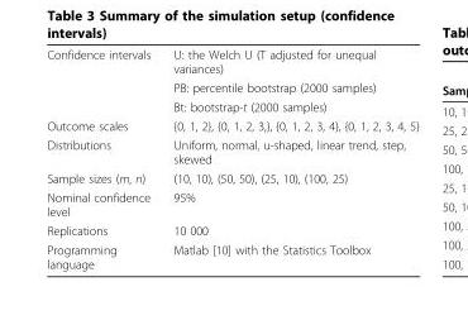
<table><tbody><tr><td rowspan="3">Confidence intervals</td><td>U: the Welch U (T adjusted for unequal variances)</td></tr><tr><td>PB: percentile bootstrap (2000 samples)</td></tr><tr><td>Bt: bootstrap-t (2000 samples)</td></tr><tr><td>Outcome scales</td><td>{0, 1, 2}, {0, 1, 2, 3,}, {0, 1, 2, 3, 4}, {0, 1, 2, 3, 4, 5}</td></tr><tr><td>Distributions</td><td>Uniform, normal, u-shaped, linear trend, step, skewed</td></tr><tr><td>Sample sizes (m, n)</td><td>(10, 10), (50, 50), (25, 10), (100, 25)</td></tr><tr><td>Nominal confidence level</td><td>95%</td></tr><tr><td>Replications</td><td>10 000</td></tr><tr><td>Programming language</td><td>Matlab [10] with the Statistics Toolbox</td></tr></tbody></table>